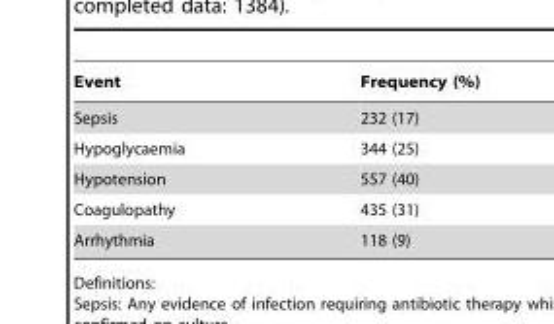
<table><thead><tr><td>Event</td><td>Frequency (%)</td></tr></thead><tbody><tr><td>Sepsis</td><td>232 (17)</td></tr><tr><td>Hypoglycaemia</td><td>344 (25)</td></tr><tr><td>Hypotension</td><td>557 (40)</td></tr><tr><td>Coagulopathy</td><td>435 (31)</td></tr><tr><td>Arrhythmia</td><td>118 (9)</td></tr></tbody></table>